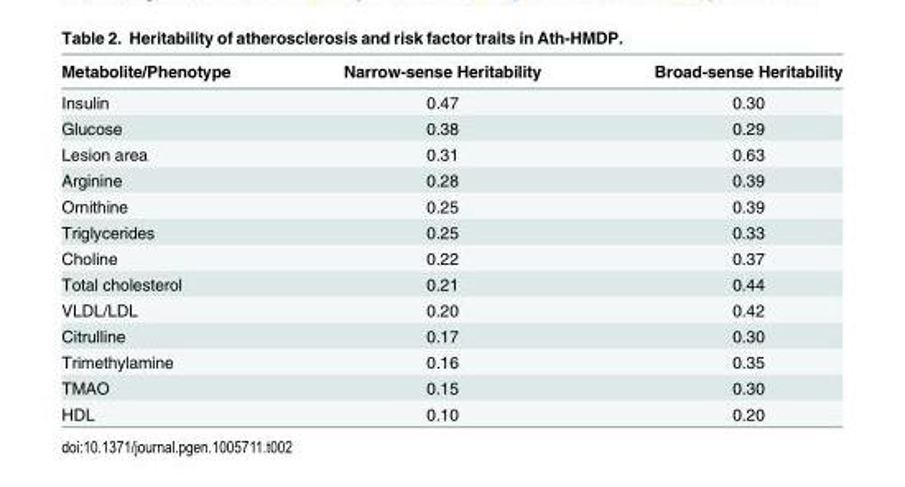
<table><thead><tr><td>Metabolite/Phenotype</td><td>Narrow-sense Heritability</td><td>Broad-sense Heritability</td></tr></thead><tbody><tr><td>Insulin</td><td>0.47</td><td>0.30</td></tr><tr><td>Glucose</td><td>0.38</td><td>0.29</td></tr><tr><td>Lesion area</td><td>0.31</td><td>0.63</td></tr><tr><td>Arginine</td><td>0.28</td><td>0.39</td></tr><tr><td>Ornithine</td><td>0.25</td><td>0.39</td></tr><tr><td>Triglycerides</td><td>0.25</td><td>0.33</td></tr><tr><td>Choline</td><td>0.22</td><td>0.37</td></tr><tr><td>Total cholesterol</td><td>0.21</td><td>0.44</td></tr><tr><td>VLDL/LDL</td><td>0.20</td><td>0.42</td></tr><tr><td>Citrulline</td><td>0.17</td><td>0.30</td></tr><tr><td>Trimethylamine</td><td>0.16</td><td>0.35</td></tr><tr><td>TMAO</td><td>0.15</td><td>0.30</td></tr><tr><td>HDL</td><td>0.10</td><td>0.20</td></tr></tbody></table>